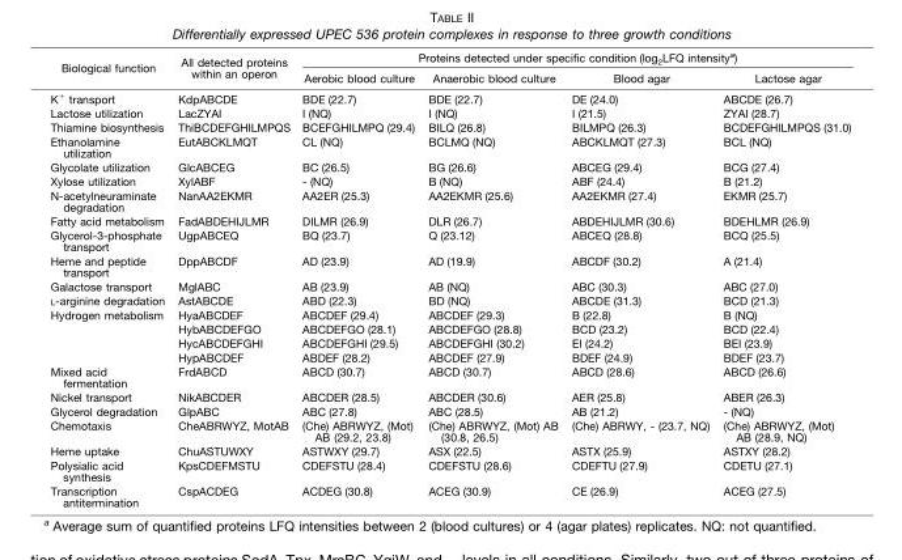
<table><thead><tr><td rowspan="2">Biological function</td><td rowspan="2">All detected proteins within an operon</td><td colspan="4">Proteins detected under specific condition (log<sub>2</sub>LFQ intensity<sup>a</sup>)</td></tr><tr><td>Aerobic blood culture</td><td>Anaerobic blood culture</td><td>Blood agar</td><td>Lactose agar</td></tr></thead><tbody><tr><td>K<sup>+</sup> transport</td><td>KdpABCDE</td><td>BDE (22.7)</td><td>BDE (22.7)</td><td>DE (24.0)</td><td>ABCDE (26.7)</td></tr><tr><td>Lactose utilization</td><td>LacZYAI</td><td>I (NQ)</td><td>I (NQ)</td><td>I (21.5)</td><td>ZYAI (28.7)</td></tr><tr><td>Thiamine biosynthesis</td><td>ThiBCDEFGHILMPQS</td><td>BCEFGHILMPQ (29.4)</td><td>BILQ (26.8)</td><td>BILMPQ (26.3)</td><td>BCDEFGHILMPQS (31.0)</td></tr><tr><td>Ethanolamine utilization</td><td>EutABCKLMQT</td><td>CL (NQ)</td><td>BCLMQ (NQ)</td><td>ABCKLMQT (27.3)</td><td>BCL (NQ)</td></tr><tr><td>Glycolate utilization</td><td>GlcABCEG</td><td>BC (26.5)</td><td>BG (26.6)</td><td>ABCEG (29.4)</td><td>BCG (27.4)</td></tr><tr><td>Xylose utilization</td><td>XylABF</td><td>- (NQ)</td><td>B (NQ)</td><td>ABF (24.4)</td><td>B (21.2)</td></tr><tr><td>N-acetylneuraminate degradation</td><td>NanAA2EKMR</td><td>AA2ER (25.3)</td><td>AA2EKMR (25.6)</td><td>AA2EKMR (27.4)</td><td>EKMR (25.7)</td></tr><tr><td>Fatty acid metabolism</td><td>FadABDEHIJLMR</td><td>DILMR (26.9)</td><td>DLR (26.7)</td><td>ABDEHIJLMR (30.6)</td><td>BDEHLMR (26.9)</td></tr><tr><td>Glycerol-3-phosphate transport</td><td>UgpABCEQ</td><td>BQ (23.7)</td><td>Q (23.12)</td><td>ABCEQ (28.8)</td><td>BCQ (25.5)</td></tr><tr><td>Heme and peptide transport</td><td>DppABCDF</td><td>AD (23.9)</td><td>AD (19.9)</td><td>ABCDF (30.2)</td><td>A (21.4)</td></tr><tr><td>Galactose transport</td><td>MglABC</td><td>AB (23.9)</td><td>AB (NQ)</td><td>ABC (30.3)</td><td>ABC (27.0)</td></tr><tr><td>L-arginine degradation</td><td>AstABCDE</td><td>ABD (22.3)</td><td>BD (NQ)</td><td>ABCDE (31.3)</td><td>BCD (21.3)</td></tr><tr><td rowspan="4">Hydrogen metabolism</td><td>HyaABCDEF</td><td>ABCDEF (29.4)</td><td>ABCDEF (29.3)</td><td>B (22.8)</td><td>B (NQ)</td></tr><tr><td>HybABCDEFGO</td><td>ABCDEFGO (28.1)</td><td>ABCDEFGO (28.8)</td><td>BCD (23.2)</td><td>BCD (22.4)</td></tr><tr><td>HycABCDEFGHI</td><td>ABCDEFGHI (29.5)</td><td>ABCDEFGHI (30.2)</td><td>EI (24.2)</td><td>BEI (23.9)</td></tr><tr><td>HypABCDEF</td><td>ABDEF (28.2)</td><td>ABCDEF (27.9)</td><td>BDEF (24.9)</td><td>BDEF (23.7)</td></tr><tr><td>Mixed acid fermentation</td><td>FrdABCD</td><td>ABCD (30.7)</td><td>ABCD (30.7)</td><td>ABCD (28.6)</td><td>ABCD (26.6)</td></tr><tr><td>Nickel transport</td><td>NikABCDER</td><td>ABCDER (28.5)</td><td>ABCDER (30.6)</td><td>AER (25.8)</td><td>ABER (26.3)</td></tr><tr><td>Glycerol degradation</td><td>GlpABC</td><td>ABC (27.8)</td><td>ABC (28.5)</td><td>AB (21.2)</td><td>- (NQ)</td></tr><tr><td>Chemotaxis</td><td>CheABRWYZ, MotAB</td><td>(Che) ABRWYZ, (Mot) AB (29.2, 23.8)</td><td>(Che) ABRWYZ, (Mot) AB (30.8, 26.5)</td><td>(Che) ABRWY, - (23.7, NQ)</td><td>(Che) ABRWYZ, (Mot) AB (28.9, NQ)</td></tr><tr><td>Heme uptake</td><td>ChuASTUWXY</td><td>ASTWXY (29.7)</td><td>ASX (22.5)</td><td>ASTX (25.9)</td><td>ASTXY (28.2)</td></tr><tr><td>Polysialic acid synthesis</td><td>KpsCDEFMSTU</td><td>CDEFSTU (28.4)</td><td>CDEFSTU (28.6)</td><td>CDEFTU (27.9)</td><td>CDETU (27.1)</td></tr><tr><td>Transcription antitermination</td><td>CspACDEG</td><td>ACDEG (30.8)</td><td>ACEG (30.9)</td><td>CE (26.9)</td><td>ACEG (27.5)</td></tr></tbody></table>